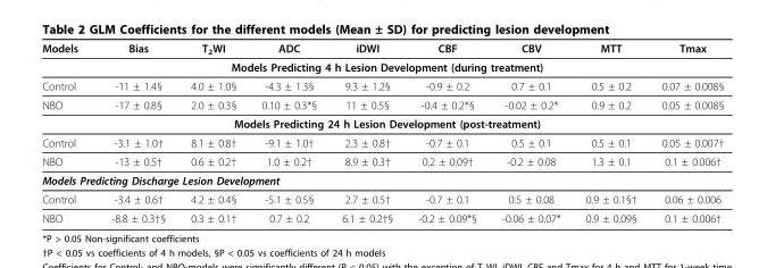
<table><thead><tr><td>Models</td><td>Bias</td><td>T<sub>2</sub>WI</td><td>ADC</td><td>iDWI</td><td>CBF</td><td>CBV</td><td>MTT</td><td>Tmax</td></tr></thead><tbody><tr><td colspan="9">Models Predicting 4 h Lesion Development (during treatment)</td></tr><tr><td>Control</td><td>-11 ± 1.4§</td><td>4.0 ± 1.0§</td><td>-4.3 ± 1.3§</td><td>9.3 ± 1.2§</td><td>-0.9 ± 0.2</td><td>0.7 ± 0.1</td><td>0.5 ± 0.2</td><td>0.07 ± 0.008§</td></tr><tr><td>NBO</td><td>-17 ± 0.8§</td><td>2.0 ± 0.3§</td><td>0.10 ± 0.3*§</td><td>11 ± 0.5§</td><td>-0.4 ± 0.2*§</td><td>-0.02 ± 0.2*</td><td>0.9 ± 0.2</td><td>0.05 ± 0.008§</td></tr><tr><td colspan="9">Models Predicting 24 h Lesion Development (post-treatment)</td></tr><tr><td>Control</td><td>-3.1 ± 1.0†</td><td>8.1 ± 0.8†</td><td>-9.1 ± 1.0†</td><td>2.3 ± 0.8†</td><td>-0.7 ± 0.1</td><td>0.5 ± 0.1</td><td>0.5 ± 0.1</td><td>0.05 ± 0.007†</td></tr><tr><td>NBO</td><td>-13 ± 0.5†</td><td>0.6 ± 0.2†</td><td>1.0 ± 0.2†</td><td>8.9 ± 0.3†</td><td>0.2 ± 0.09†</td><td>-0.2 ± 0.08</td><td>1.3 ± 0.1</td><td>0.1 ± 0.006†</td></tr><tr><td colspan="9">Models Predicting Discharge Lesion Development</td></tr><tr><td>Control</td><td>-3.4 ± 0.6†</td><td>4.2 ± 0.4§</td><td>-5.1 ± 0.5§</td><td>2.7 ± 0.5†</td><td>-0.7 ± 0.1</td><td>0.5 ± 0.08</td><td>0.9 ± 0.1§†</td><td>0.06 ± 0.006</td></tr><tr><td>NBO</td><td>-8.8 ± 0.3†§</td><td>0.3 ± 0.1†</td><td>0.7 ± 0.2</td><td>6.1 ± 0.2†§</td><td>-0.2 ± 0.09*§</td><td>-0.06 ± 0.07*</td><td>0.9 ± 0.09§</td><td>0.1 ± 0.006†</td></tr></tbody></table>